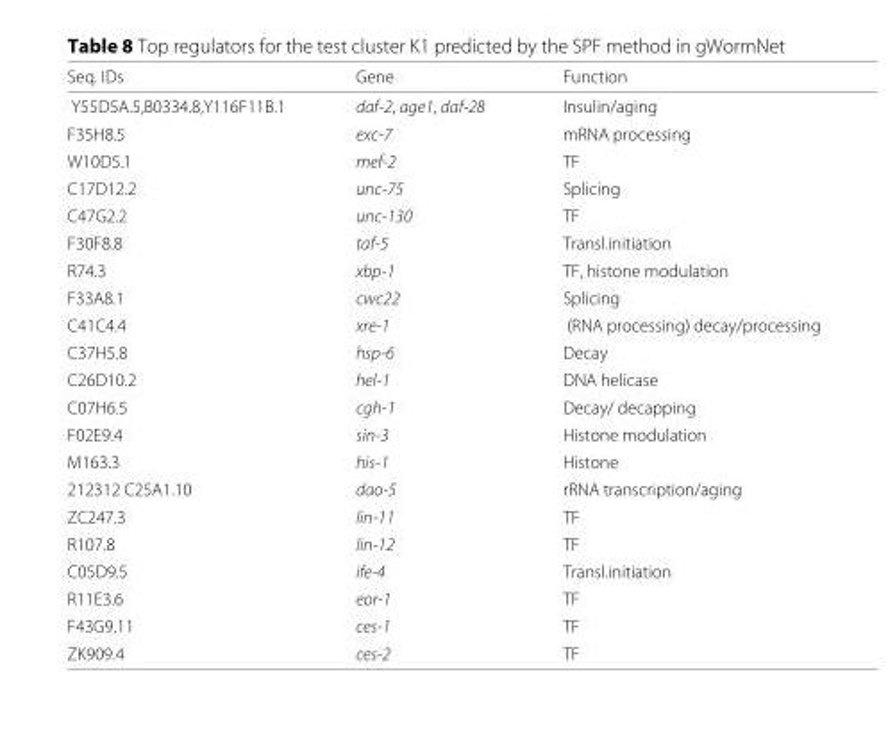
<table><thead><tr><td>Seq. IDs</td><td>Gene</td><td>Function</td></tr></thead><tbody><tr><td>Y55D5A.5,B0334.8,Y116F11B.1</td><td>daf-2, age1, daf-28</td><td>Insulin/aging</td></tr><tr><td>F35H8.5</td><td>exc-7</td><td>mRNA processing</td></tr><tr><td>W10D5.1</td><td>mef-2</td><td>TF</td></tr><tr><td>C17D12.2</td><td>unc-75</td><td>Splicing</td></tr><tr><td>C47G2.2</td><td>unc-130</td><td>TF</td></tr><tr><td>F30F8.8</td><td>taf-5</td><td>Transl.initiation</td></tr><tr><td>R74.3</td><td>xbp-1</td><td>TF, histone modulation</td></tr><tr><td>F33A8.1</td><td>cwc22</td><td>Splicing</td></tr><tr><td>C41C4.4</td><td>xre-1</td><td>(RNA processing) decay/processing</td></tr><tr><td>C37H5.8</td><td>hsp-6</td><td>Decay</td></tr><tr><td>C26D10.2</td><td>hel-1</td><td>DNA helicase</td></tr><tr><td>C07H6.5</td><td>cgh-1</td><td>Decay/ decapping</td></tr><tr><td>F02E9.4</td><td>sin-3</td><td>Histone modulation</td></tr><tr><td>M163.3</td><td>his-1</td><td>Histone</td></tr><tr><td>212312 C25A1.10</td><td>dao-5</td><td>rRNA transcription/aging</td></tr><tr><td>ZC247.3</td><td>lin-11</td><td>TF</td></tr><tr><td>R107.8</td><td>lin-12</td><td>TF</td></tr><tr><td>C05D9.5</td><td>ife-4</td><td>Transl.initiation</td></tr><tr><td>R11E3.6</td><td>eor-1</td><td>TF</td></tr><tr><td>F43G9.11</td><td>ces-1</td><td>TF</td></tr><tr><td>ZK909.4</td><td>ces-2</td><td>TF</td></tr></tbody></table>